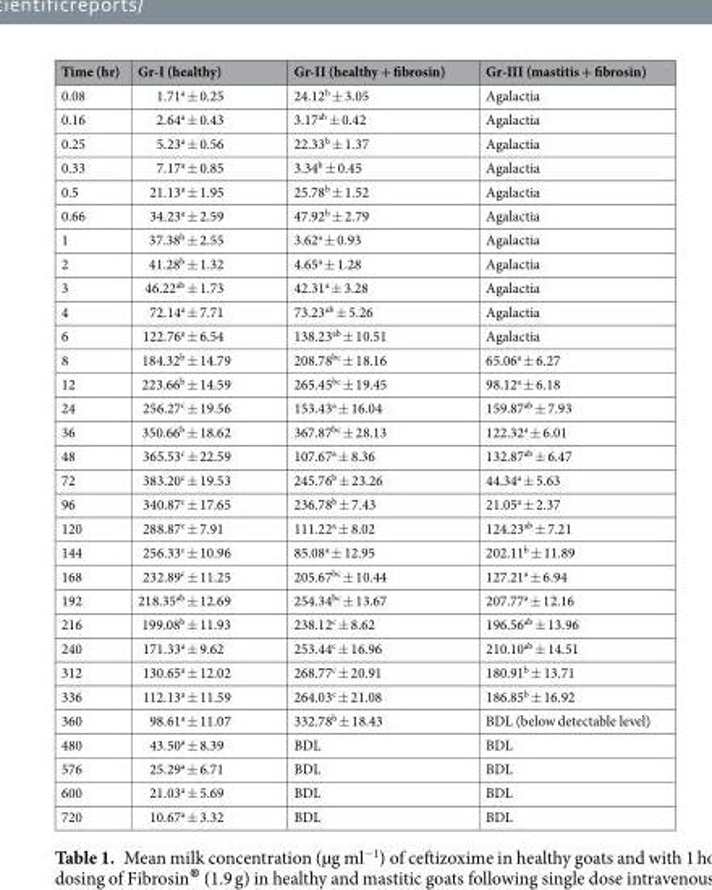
<table><thead><tr><td>Time (hr)</td><td>Gr-I (healthy)</td><td>Gr-II (healthy + fibrosin)</td><td>Gr-III (mastitis + fibrosin)</td></tr></thead><tbody><tr><td>0.08</td><td>1.71<sup>a</sup> ± 0.25</td><td>24.12<sup>b</sup> ± 3.05</td><td>Agalactia</td></tr><tr><td>0.16</td><td>2.64<sup>a</sup> ± 0.43</td><td>3.17<sup>ab</sup> ± 0.42</td><td>Agalactia</td></tr><tr><td>0.25</td><td>5.23<sup>a</sup> ± 0.56</td><td>22.33<sup>b</sup> ± 1.37</td><td>Agalactia</td></tr><tr><td>0.33</td><td>7.17<sup>a</sup> ± 0.85</td><td>3.34<sup>b</sup> ± 0.45</td><td>Agalactia</td></tr><tr><td>0.5</td><td>21.13<sup>a</sup> ± 1.95</td><td>25.78<sup>b</sup> ± 1.52</td><td>Agalactia</td></tr><tr><td>0.66</td><td>34.23<sup>a</sup> ± 2.59</td><td>47.92<sup>b</sup> ± 2.79</td><td>Agalactia</td></tr><tr><td>1</td><td>37.38<sup>b</sup> ± 2.55</td><td>3.62<sup>a</sup> ± 0.93</td><td>Agalactia</td></tr><tr><td>2</td><td>41.28<sup>b</sup> ± 1.32</td><td>4.65<sup>a</sup> ± 1.28</td><td>Agalactia</td></tr><tr><td>3</td><td>46.22<sup>ab</sup> ± 1.73</td><td>42.31<sup>a</sup> ± 3.28</td><td>Agalactia</td></tr><tr><td>4</td><td>72.14<sup>a</sup> ± 7.71</td><td>73.23<sup>ab</sup> ± 5.26</td><td>Agalactia</td></tr><tr><td>6</td><td>122.76<sup>a</sup> ± 6.54</td><td>138.23<sup>ab</sup> ± 10.51</td><td>Agalactia</td></tr><tr><td>8</td><td>184.32<sup>b</sup> ± 14.79</td><td>208.78<sup>bc</sup> ± 18.16</td><td>65.06<sup>a</sup> ± 6.27</td></tr><tr><td>12</td><td>223.66<sup>b</sup> ± 14.59</td><td>265.45<sup>bc</sup> ± 19.45</td><td>98.12<sup>a</sup> ± 6.18</td></tr><tr><td>24</td><td>256.27<sup>c</sup> ± 19.56</td><td>153.43<sup>a</sup> ± 16.04</td><td>159.87<sup>ab</sup> ± 7.93</td></tr><tr><td>36</td><td>350.66<sup>b</sup> ± 18.62</td><td>367.87<sup>bc</sup> ± 28.13</td><td>122.32<sup>a</sup> ± 6.01</td></tr><tr><td>48</td><td>365.53<sup>c</sup> ± 22.59</td><td>107.67<sup>a</sup> ± 8.36</td><td>132.87<sup>ab</sup> ± 6.47</td></tr><tr><td>72</td><td>383.20<sup>c</sup> ± 19.53</td><td>245.76<sup>b</sup> ± 23.26</td><td>44.34<sup>a</sup> ± 5.63</td></tr><tr><td>96</td><td>340.87<sup>c</sup> ± 17.65</td><td>236.78<sup>b</sup> ± 7.43</td><td>21.05<sup>a</sup> ± 2.37</td></tr><tr><td>120</td><td>288.87<sup>c</sup> ± 7.91</td><td>111.22<sup>a</sup> ± 8.02</td><td>124.23<sup>ab</sup> ± 7.21</td></tr><tr><td>144</td><td>256.33<sup>c</sup> ± 10.96</td><td>85.08<sup>a</sup> ± 12.95</td><td>202.11<sup>b</sup> ± 11.89</td></tr><tr><td>168</td><td>232.89<sup>c</sup> ± 11.25</td><td>205.67<sup>bc</sup> ± 10.44</td><td>127.21<sup>a</sup> ± 6.94</td></tr><tr><td>192</td><td>218.35<sup>ab</sup> ± 12.69</td><td>254.34<sup>bc</sup> ± 13.67</td><td>207.77<sup>a</sup> ± 12.16</td></tr><tr><td>216</td><td>199.08<sup>b</sup> ± 11.93</td><td>238.12<sup>c</sup> ± 8.62</td><td>196.56<sup>ab</sup> ± 13.96</td></tr><tr><td>240</td><td>171.33<sup>a</sup> ± 9.62</td><td>253.44<sup>c</sup> ± 16.96</td><td>210.10<sup>ab</sup> ± 14.51</td></tr><tr><td>312</td><td>130.65<sup>a</sup> ± 12.02</td><td>268.77<sup>c</sup> ± 20.91</td><td>180.91<sup>b</sup> ± 13.71</td></tr><tr><td>336</td><td>112.13<sup>a</sup> ± 11.59</td><td>264.03<sup>c</sup> ± 21.08</td><td>186.85<sup>b</sup> ± 16.92</td></tr><tr><td>360</td><td>98.61<sup>a</sup> ± 11.07</td><td>332.78<sup>b</sup> ± 18.43</td><td>BDL (below detectable level)</td></tr><tr><td>480</td><td>43.50<sup>a</sup> ± 8.39</td><td>BDL</td><td>BDL</td></tr><tr><td>576</td><td>25.29<sup>a</sup> ± 6.71</td><td>BDL</td><td>BDL</td></tr><tr><td>600</td><td>21.03<sup>a</sup> ± 5.69</td><td>BDL</td><td>BDL</td></tr><tr><td>720</td><td>10.67<sup>a</sup> ± 3.32</td><td>BDL</td><td>BDL</td></tr></tbody></table>